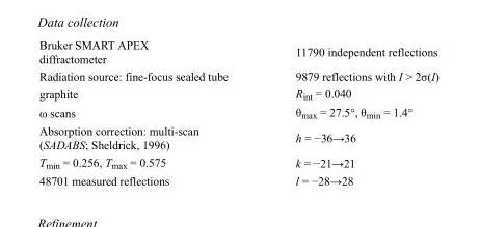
<table><tbody><tr><td>Bruker SMART APEX diffractometer</td><td>11790 independent reflections</td></tr><tr><td>Radiation source: fine-focus sealed tube</td><td>9879 reflections with I &gt; 2σ(I)</td></tr><tr><td>graphite</td><td>R<sub>int</sub> = 0.040</td></tr><tr><td>ω scans</td><td>θ<sub>max</sub> = 27.5°, θ<sub>min</sub> = 1.4°</td></tr><tr><td>Absorption correction: multi-scan (SADABS; Sheldrick, 1996)</td><td>h = −36→36</td></tr><tr><td>T<sub>min</sub> = 0.256, T<sub>max</sub> = 0.575</td><td>k = −21→21</td></tr><tr><td>48701 measured reflections</td><td>l = −28→28</td></tr></tbody></table>